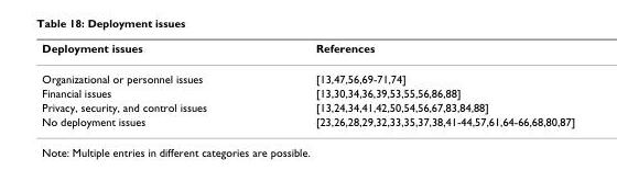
<table><thead><tr><td>Deployment issues</td><td>References</td></tr></thead><tbody><tr><td>Organizational or personnel issues</td><td>[13,47,56,69-71,74]</td></tr><tr><td>Financial issues</td><td>[13,30,34,36,39,53,55,56,86,88]</td></tr><tr><td>Privacy, security, and control issues</td><td>[13,24,34,41,42,50,54,56,67,83,84,88]</td></tr><tr><td>No deployment issues</td><td>[23,26,28,29,32,33,35,37,38,41-44,57,61,64-66,68,80,87]</td></tr></tbody></table>